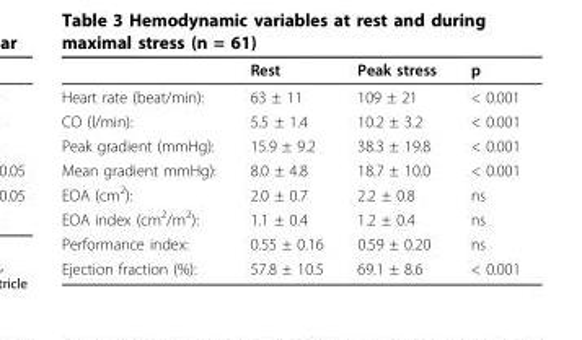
<table><thead><tr><td></td><td>Rest</td><td>Peak stress</td><td>p</td></tr></thead><tbody><tr><td>Heart rate (beat/min):</td><td>63 ± 11</td><td>109 ± 21</td><td>&lt; 0.001</td></tr><tr><td>CO (l/min):</td><td>5.5 ± 1.4</td><td>10.2 ± 3.2</td><td>&lt; 0.001</td></tr><tr><td>Peak gradient (mmHg):</td><td>15.9 ± 9.2</td><td>38.3 ± 19.8</td><td>&lt; 0.001</td></tr><tr><td>Mean gradient mmHg):</td><td>8.0 ± 4.8</td><td>18.7 ± 10.0</td><td>&lt; 0.001</td></tr><tr><td>EOA (cm<sup>2</sup>):</td><td>2.0 ± 0.7</td><td>2.2 ± 0.8</td><td>ns</td></tr><tr><td>EOA index (cm<sup>2</sup>/m<sup>2</sup>):</td><td>1.1 ± 0.4</td><td>1.2 ± 0.4</td><td>ns</td></tr><tr><td>Performance index:</td><td>0.55 ± 0.16</td><td>0.59 ± 0.20</td><td>ns</td></tr><tr><td>Ejection fraction (%):</td><td>57.8 ± 10.5</td><td>69.1 ± 8.6</td><td>&lt; 0.001</td></tr></tbody></table>